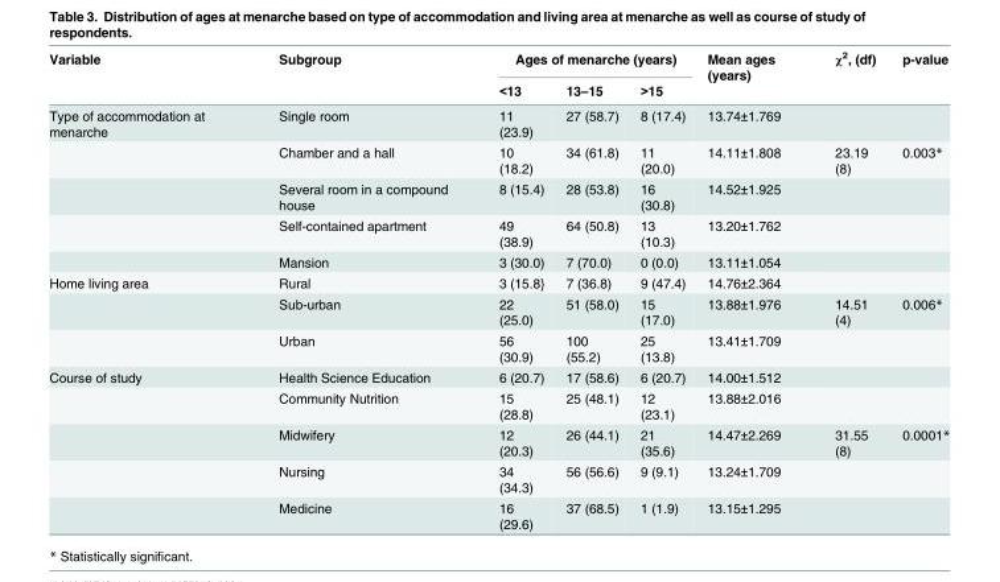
<table><thead><tr><td rowspan="2">Variable</td><td rowspan="2">Subgroup</td><td colspan="3">Ages of menarche (years)</td><td rowspan="2">Mean ages (years)</td><td rowspan="2">χ<sup>2</sup>, (df)</td><td rowspan="2">p-value</td></tr><tr><td>&lt;13</td><td>13–15</td><td>&gt;15</td></tr></thead><tbody><tr><td rowspan="5">Type of accommodation at menarche</td><td>Single room</td><td>11 (23.9)</td><td>27 (58.7)</td><td>8 (17.4)</td><td>13.74±1.769</td><td></td><td></td></tr><tr><td>Chamber and a hall</td><td>10 (18.2)</td><td>34 (61.8)</td><td>11 (20.0)</td><td>14.11±1.808</td><td>23.19 (8)</td><td>0.003*</td></tr><tr><td>Several room in a compound house</td><td>8 (15.4)</td><td>28 (53.8)</td><td>16 (30.8)</td><td>14.52±1.925</td><td></td><td></td></tr><tr><td>Self-contained apartment</td><td>49 (38.9)</td><td>64 (50.8)</td><td>13 (10.3)</td><td>13.20±1.762</td><td></td><td></td></tr><tr><td>Mansion</td><td>3 (30.0)</td><td>7 (70.0)</td><td>0 (0.0)</td><td>13.11±1.054</td><td></td><td></td></tr><tr><td rowspan="3">Home living area</td><td>Rural</td><td>3 (15.8}</td><td>7 (36.8)</td><td>9 (47.4)</td><td>14.76±2.364</td><td></td><td></td></tr><tr><td>Sub-urban</td><td>22 (25.0)</td><td>51 (58.0)</td><td>15 (17.0)</td><td>13.88±1.976</td><td>14.51 (4)</td><td>0.006*</td></tr><tr><td>Urban</td><td>56 (30.9)</td><td>100 (55.2)</td><td>25 (13.8)</td><td>13.41±1.709</td><td></td><td></td></tr><tr><td rowspan="5">Course of study</td><td>Health Science Education</td><td>6 (20.7)</td><td>17 (58.6)</td><td>6 (20.7)</td><td>14.00±1.512</td><td></td><td></td></tr><tr><td>Community Nutrition</td><td>15 (28.8)</td><td>25 (48.1)</td><td>12 (23.1)</td><td>13.88±2.016</td><td></td><td></td></tr><tr><td>Midwifery</td><td>12 (20.3)</td><td>26 (44.1)</td><td>21 (35.6)</td><td>14.47±2.269</td><td>31.55 (8)</td><td>0.0001*</td></tr><tr><td>Nursing</td><td>34 (34.3)</td><td>56 (56.6)</td><td>9 (9.1)</td><td>13.24±1.709</td><td></td><td></td></tr><tr><td>Medicine</td><td>16 (29.6)</td><td>37 (68.5)</td><td>1 (1.9)</td><td>13.15±1.295</td><td></td><td></td></tr></tbody></table>